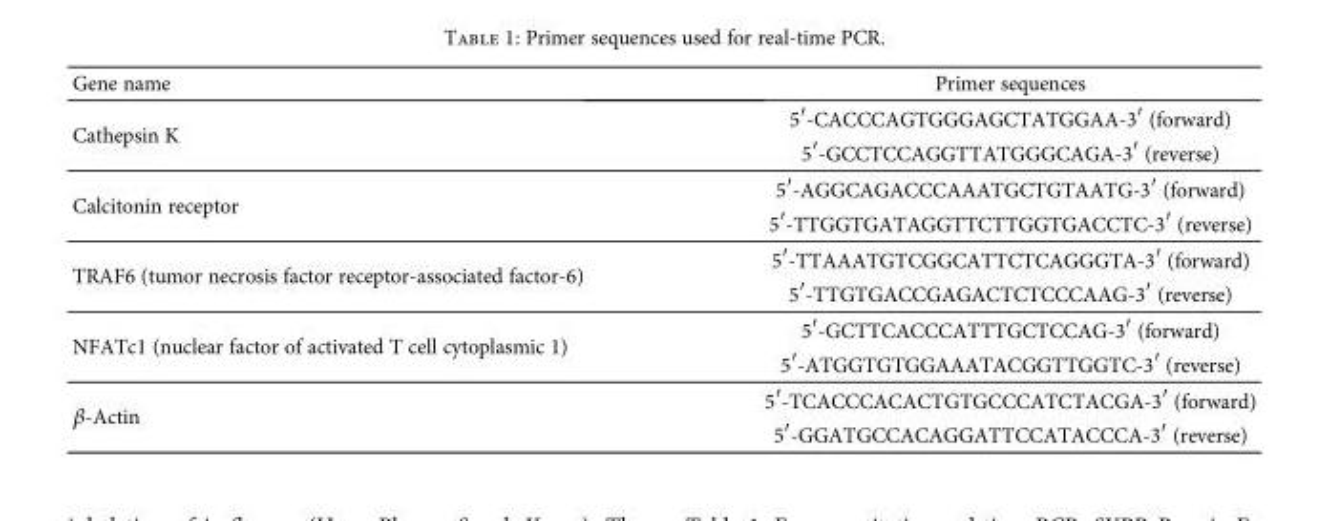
<table><thead><tr><td>Gene name</td><td>Primer sequences</td></tr></thead><tbody><tr><td rowspan="2">Cathepsin K</td><td>5′-CACCCAGTGGGAGCTATGGAA-3′ (forward)</td></tr><tr><td>5′-GCCTCCAGGTTATGGGCAGA-3′ (reverse)</td></tr><tr><td rowspan="2">Calcitonin receptor</td><td>5′-AGGCAGACCCAAATGCTGTAATG-3′ (forward)</td></tr><tr><td>5′-TTGGTGATAGGTTCTTGGTGACCTC-3′ (reverse)</td></tr><tr><td rowspan="2">TRAF6 (tumor necrosis factor receptor-associated factor-6)</td><td>5′-TTAAATGTCGGCATTCTCAGGGTA-3′ (forward)</td></tr><tr><td>5′-TTGTGACCGAGACTCTCCCAAG-3′ (reverse)</td></tr><tr><td rowspan="2">NFATc1 (nuclear factor of activated T cell cytoplasmic 1)</td><td>5′-GCTTCACCCATTTGCTCCAG-3′ (forward)</td></tr><tr><td>5′-ATGGTGTGGAAATACGGTTGGTC-3′ (reverse)</td></tr><tr><td rowspan="2">β-Actin</td><td>5′-TCACCCACACTGTGCCCATCTACGA-3′ (forward)</td></tr><tr><td>5′-GGATGCCACAGGATTCCATACCCA-3′ (reverse)</td></tr></tbody></table>